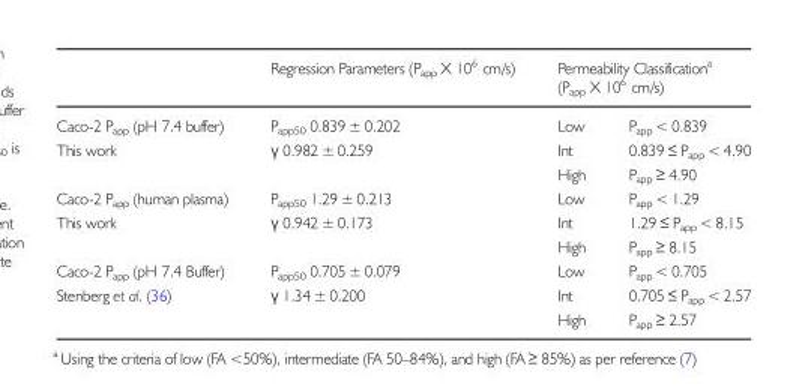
<table><thead><tr><td rowspan="2">Caco-2 P<sub>app</sub> (pH 7.4 buffer) This work</td><td rowspan="2">Regression Parameters (P<sub>app</sub> X 10<sup>6</sup> cm/s) P<sub>app50</sub> 0.839 ± 0.202 γ 0.982 ± 0.259</td><td colspan="2">Permeability Classification<sup>a</sup> (P<sub>app</sub> X 10<sup>6</sup> cm/s)</td></tr><tr><td>Low Int High</td><td>P<sub>app</sub> &lt; 0.839 0.839 ≤ P<sub>app</sub> &lt; 4.90 P<sub>app</sub> ≥ 4.90</td></tr></thead><tbody><tr><td>Caco-2 P<sub>app</sub> (human plasma) This work</td><td>P<sub>app50</sub> 1.29 ± 0.213 γ 0.942 ± 0.173</td><td>Low Int High</td><td>P<sub>app</sub> &lt; 1.29 1.29 ≤ P<sub>app</sub> &lt; 8.15 P<sub>app</sub> ≥ 8.15</td></tr><tr><td>Caco-2 P<sub>app</sub> (pH 7.4 Buffer) Stenberg et al. (36)</td><td>P<sub>app50</sub> 0.705 ± 0.079 γ 1.34 ± 0.200</td><td>Low Int High</td><td>P<sub>app</sub> &lt; 0.705 0.705 ≤ P<sub>app</sub> &lt; 2.57 P<sub>app</sub> ≥ 2.57</td></tr></tbody></table>